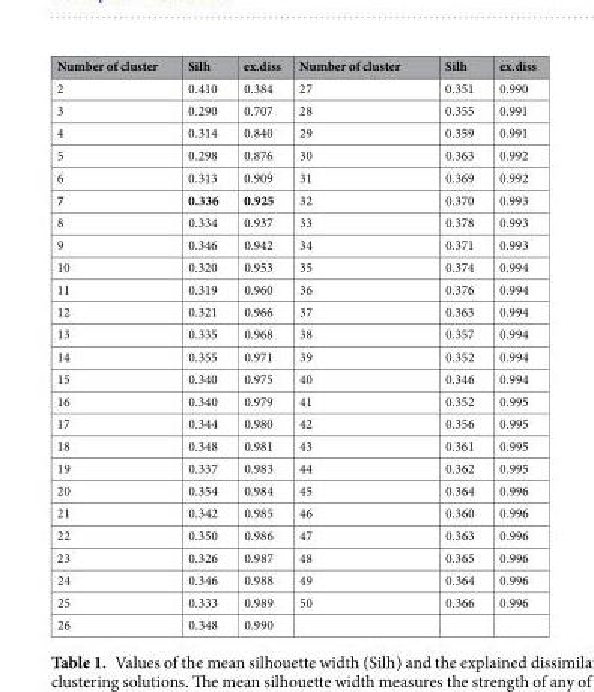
<table><thead><tr><td>Number of cluster</td><td>Silh</td><td>ex.diss</td><td>Number of cluster</td><td>Silh</td><td>ex.diss</td></tr></thead><tbody><tr><td>2</td><td>0.410</td><td>0.384</td><td>27</td><td>0.351</td><td>0.990</td></tr><tr><td>3</td><td>0.290</td><td>0.707</td><td>28</td><td>0.355</td><td>0.991</td></tr><tr><td>4</td><td>0.314</td><td>0.840</td><td>29</td><td>0.359</td><td>0.991</td></tr><tr><td>5</td><td>0.298</td><td>0.876</td><td>30</td><td>0.363</td><td>0.992</td></tr><tr><td>6</td><td>0.313</td><td>0.909</td><td>31</td><td>0.369</td><td>0.992</td></tr><tr><td>7</td><td>0.336</td><td>0.925</td><td>32</td><td>0.370</td><td>0.993</td></tr><tr><td>8</td><td>0.334</td><td>0.937</td><td>33</td><td>0.378</td><td>0.993</td></tr><tr><td>9</td><td>0.346</td><td>0.942</td><td>34</td><td>0.371</td><td>0.993</td></tr><tr><td>10</td><td>0.320</td><td>0.953</td><td>35</td><td>0.374</td><td>0.994</td></tr><tr><td>11</td><td>0.319</td><td>0.960</td><td>36</td><td>0.376</td><td>0.994</td></tr><tr><td>12</td><td>0.321</td><td>0.966</td><td>37</td><td>0.363</td><td>0.994</td></tr><tr><td>13</td><td>0.335</td><td>0.968</td><td>38</td><td>0.357</td><td>0.994</td></tr><tr><td>14</td><td>0.355</td><td>0.971</td><td>39</td><td>0.352</td><td>0.994</td></tr><tr><td>15</td><td>0.340</td><td>0.975</td><td>40</td><td>0.346</td><td>0.994</td></tr><tr><td>16</td><td>0.340</td><td>0.979</td><td>41</td><td>0.352</td><td>0.995</td></tr><tr><td>17</td><td>0.344</td><td>0.980</td><td>42</td><td>0.356</td><td>0.995</td></tr><tr><td>18</td><td>0.348</td><td>0.981</td><td>43</td><td>0.361</td><td>0.995</td></tr><tr><td>19</td><td>0.337</td><td>0.983</td><td>44</td><td>0.362</td><td>0.995</td></tr><tr><td>20</td><td>0.354</td><td>0.984</td><td>45</td><td>0.364</td><td>0.996</td></tr><tr><td>21</td><td>0.342</td><td>0.985</td><td>46</td><td>0.360</td><td>0.996</td></tr><tr><td>22</td><td>0.350</td><td>0.986</td><td>47</td><td>0.363</td><td>0.996</td></tr><tr><td>23</td><td>0.326</td><td>0.987</td><td>48</td><td>0.365</td><td>0.996</td></tr><tr><td>24</td><td>0.346</td><td>0.988</td><td>49</td><td>0.364</td><td>0.996</td></tr><tr><td>25</td><td>0.333</td><td>0.989</td><td>50</td><td>0.366</td><td>0.996</td></tr><tr><td>26</td><td>0.348</td><td>0.990</td><td></td><td></td><td></td></tr></tbody></table>